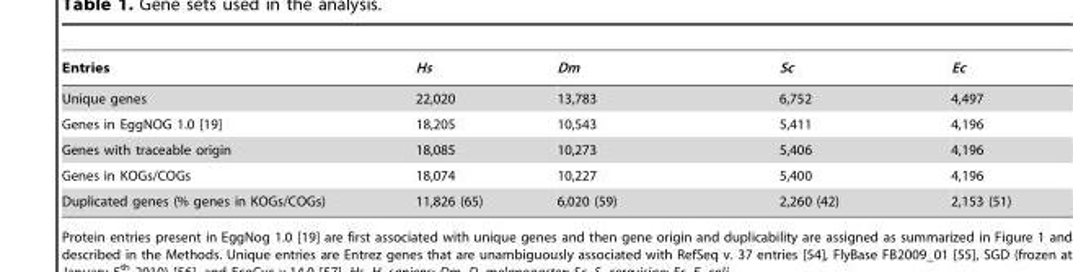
<table><thead><tr><td>Entries</td><td>Hs</td><td>Dm</td><td>Sc</td><td>Ec</td></tr></thead><tbody><tr><td>Unique genes</td><td>22,020</td><td>13,783</td><td>6,752</td><td>4,497</td></tr><tr><td>Genes in EggNOG 1.0 [19]</td><td>18,205</td><td>10,543</td><td>5,411</td><td>4,196</td></tr><tr><td>Genes with traceable origin</td><td>18,085</td><td>10,273</td><td>5,406</td><td>4,196</td></tr><tr><td>Genes in KOGs/COGs</td><td>18,074</td><td>10,227</td><td>5,400</td><td>4,196</td></tr><tr><td>Duplicated genes (% genes in KOGs/COGs)</td><td>11,826 (65)</td><td>6,020 (59)</td><td>2,260 (42)</td><td>2,153 (51)</td></tr></tbody></table>